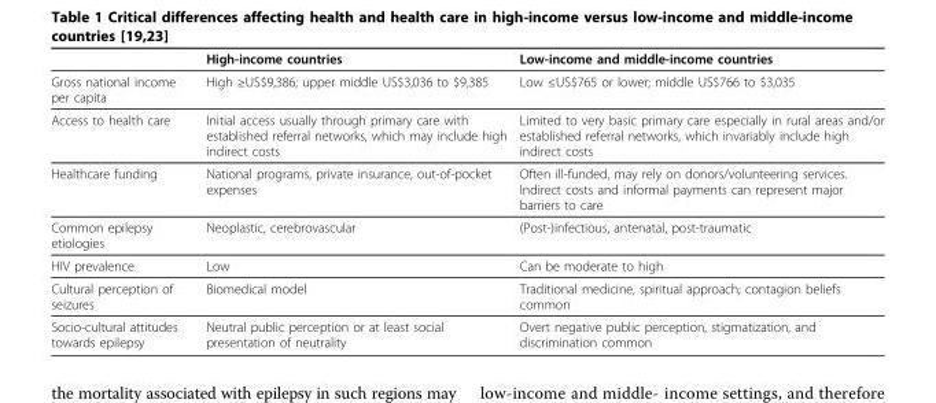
<table><thead><tr><td></td><td>High-income countries</td><td>Low-income and middle-income countries</td></tr></thead><tbody><tr><td>Gross national income per capita</td><td>High ≥US$9,386; upper middle US$3,036 to $9,385</td><td>Low ≤US$765 or lower; middle US$766 to $3,035</td></tr><tr><td>Access to health care</td><td>Initial access usually through primary care with established referral networks, which may include high indirect costs</td><td>Limited to very basic primary care especially in rural areas and/or established referral networks, which invariably include high indirect costs</td></tr><tr><td>Healthcare funding</td><td>National programs, private insurance, out-of-pocket expenses</td><td>Often ill-funded, may rely on donors/volunteering services. Indirect costs and informal payments can represent major barriers to care</td></tr><tr><td>Common epilepsy etiologies</td><td>Neoplastic, cerebrovascular</td><td>(Post-)infectious, antenatal, post-traumatic</td></tr><tr><td>HIV prevalence</td><td>Low</td><td>Can be moderate to high</td></tr><tr><td>Cultural perception of seizures</td><td>Biomedical model</td><td>Traditional medicine, spiritual approach; contagion beliefs common</td></tr><tr><td>Socio-cultural attitudes towards epilepsy</td><td>Neutral public perception or at least social presentation of neutrality</td><td>Overt negative public perception, stigmatization, and discrimination common</td></tr></tbody></table>